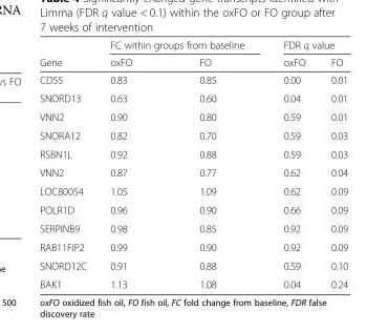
<table><thead><tr><td rowspan="2">Gene</td><td colspan="2">FC within groups from baseline</td><td colspan="2">FDR q value</td></tr><tr><td>oxFO</td><td>FO</td><td>oxFO</td><td>FO</td></tr></thead><tbody><tr><td>CD55</td><td>0.83</td><td>0.85</td><td>0.00</td><td>0.01</td></tr><tr><td>SNORD13</td><td>0.63</td><td>0.60</td><td>0.04</td><td>0.01</td></tr><tr><td>VNN2</td><td>0.90</td><td>0.80</td><td>0.59</td><td>0.01</td></tr><tr><td>SNORA12</td><td>0.82</td><td>0.70</td><td>0.59</td><td>0.03</td></tr><tr><td>RSBN1L</td><td>0.92</td><td>0.88</td><td>0.59</td><td>0.03</td></tr><tr><td>VNN2</td><td>0.87</td><td>0.77</td><td>0.62</td><td>0.04</td></tr><tr><td>LOC80054</td><td>1.05</td><td>1.09</td><td>0.62</td><td>0.09</td></tr><tr><td>POLR1D</td><td>0.96</td><td>0.90</td><td>0.66</td><td>0.09</td></tr><tr><td>SERPINB9</td><td>0.98</td><td>0.85</td><td>0.92</td><td>0.09</td></tr><tr><td>RAB11FIP2</td><td>0.99</td><td>0.90</td><td>0.92</td><td>0.09</td></tr><tr><td>SNORD12C</td><td>0.91</td><td>0.88</td><td>0.59</td><td>0.10</td></tr><tr><td>BAK1</td><td>1.13</td><td>1.08</td><td>0.04</td><td>0.24</td></tr></tbody></table>